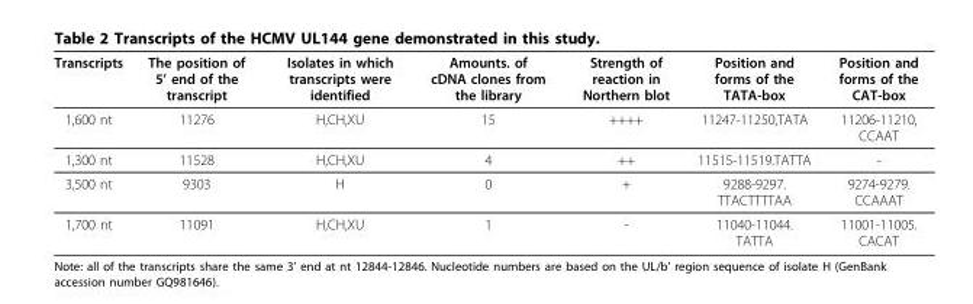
<table><thead><tr><td>Transcripts</td><td>The position of 5’ end of the transcript</td><td>Isolates in which transcripts were identified</td><td>Amounts. of cDNA clones from the library</td><td>Strength of reaction in Northern blot</td><td>Position and forms of the TATA-box</td><td>Position and forms of the CAT-box</td></tr></thead><tbody><tr><td>1,600 nt</td><td>11276</td><td>H,CH,XU</td><td>15</td><td>++++</td><td>11247-11250,TATA</td><td>11206-11210, CCAAT</td></tr><tr><td>1,300 nt</td><td>11528</td><td>H,CH,XU</td><td>4</td><td>++</td><td>11515-11519.TATTA</td><td>-</td></tr><tr><td>3,500 nt</td><td>9303</td><td>H</td><td>0</td><td>+</td><td>9288-9297. TTACTTTTAA</td><td>9274-9279. CCAAAT</td></tr><tr><td>1,700 nt</td><td>11091</td><td>H,CH,XU</td><td>1</td><td>-</td><td>11040-11044. TATTA</td><td>11001-11005. CACAT</td></tr></tbody></table>